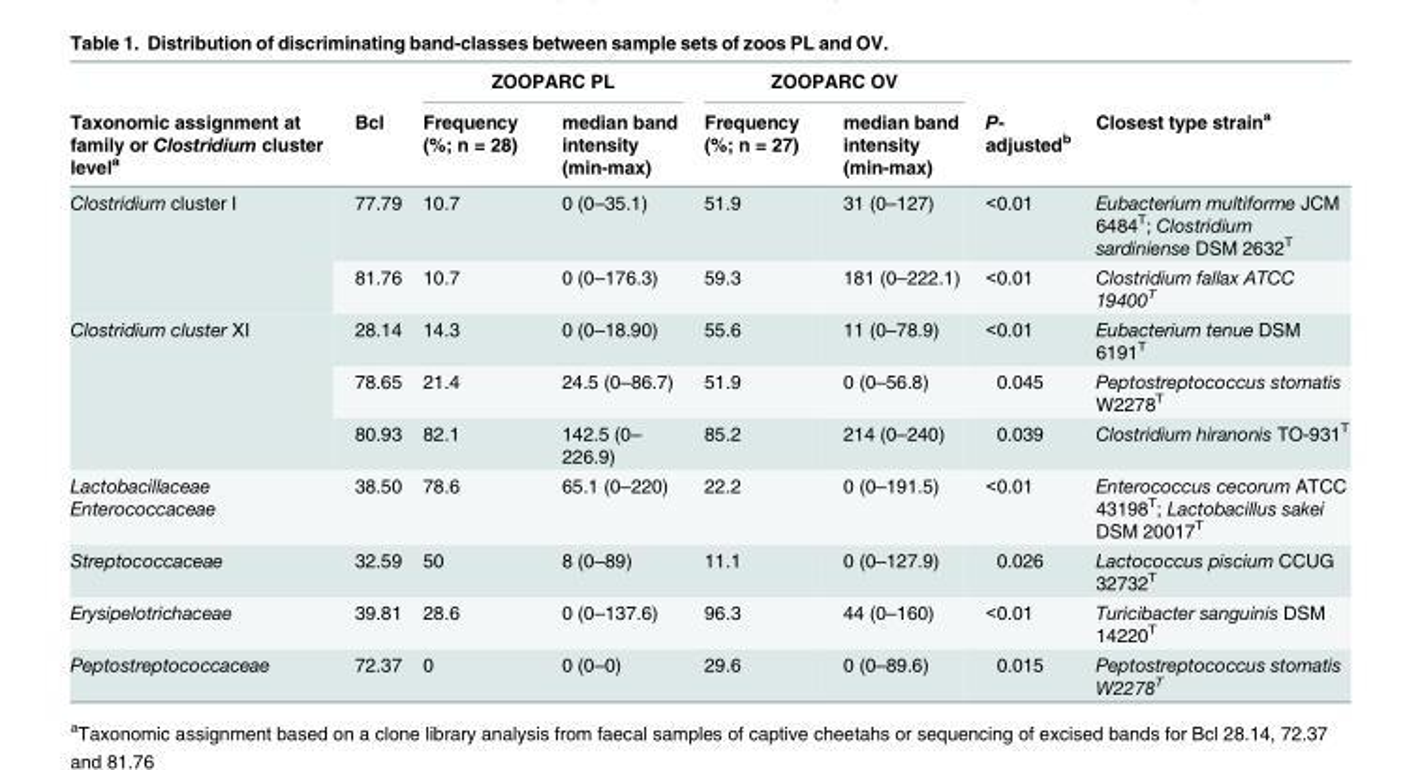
<table><thead><tr><td rowspan="2">Taxonomic assignment at family or Clostridium cluster level<sup>a</sup></td><td rowspan="2">Bcl</td><td colspan="2">ZOOPARC PL</td><td colspan="2">ZOOPARC OV</td><td rowspan="2">P- adjusted<sup>b</sup></td><td rowspan="2">Closest type strain<sup>a</sup></td></tr><tr><td>Frequency (%; n = 28)</td><td>median band intensity (min-max)</td><td>Frequency (%; n = 27)</td><td>median band intensity (min-max)</td></tr></thead><tbody><tr><td rowspan="2">Clostridium cluster I</td><td>77.79</td><td>10.7</td><td>0 (0–35.1)</td><td>51.9</td><td>31 (0–127)</td><td>&lt;0.01</td><td>Eubacterium multiforme JCM 6484<sup>T</sup>; Clostridium sardiniense DSM 2632<sup>T</sup></td></tr><tr><td>81.76</td><td>10.7</td><td>0 (0–176.3)</td><td>59.3</td><td>181 (0–222.1)</td><td>&lt;0.01</td><td>Clostridium fallax ATCC 19400<sup>T</sup></td></tr><tr><td rowspan="3">Clostridium cluster XI</td><td>28.14</td><td>14.3</td><td>0 (0–18.90)</td><td>55.6</td><td>11 (0–78.9)</td><td>&lt;0.01</td><td>Eubacterium tenue DSM 6191<sup>T</sup></td></tr><tr><td>78.65</td><td>21.4</td><td>24.5 (0–86.7)</td><td>51.9</td><td>0 (0–56.8)</td><td>0.045</td><td>Peptostreptococcus stomatis W2278<sup>T</sup></td></tr><tr><td>80.93</td><td>82.1</td><td>142.5 (0– 226.9)</td><td>85.2</td><td>214 (0–240)</td><td>0.039</td><td>Clostridium hiranonis TO-931<sup>T</sup></td></tr><tr><td>Lactobacillaceae Enterococcaceae</td><td>38.50</td><td>78.6</td><td>65.1 (0–220)</td><td>22.2</td><td>0 (0–191.5)</td><td>&lt;0.01</td><td>Enterococcus cecorum ATCC 43198<sup>T</sup>; Lactobacillus sakei DSM 20017<sup>T</sup></td></tr><tr><td>Streptococcaceae</td><td>32.59</td><td>50</td><td>8 (0–89)</td><td>11.1</td><td>0 (0–127.9)</td><td>0.026</td><td>Lactococcus piscium CCUG 32732<sup>T</sup></td></tr><tr><td>Erysipelotrichaceae</td><td>39.81</td><td>28.6</td><td>0 (0–137.6)</td><td>96.3</td><td>44 (0–160)</td><td>&lt;0.01</td><td>Turicibacter sanguinis DSM 14220<sup>T</sup></td></tr><tr><td>Peptostreptococcaceae</td><td>72.37</td><td>0</td><td>0 (0–0)</td><td>29.6</td><td>0 (0–89.6)</td><td>0.015</td><td>Peptostreptococcus stomatis W2278<sup>T</sup></td></tr></tbody></table>